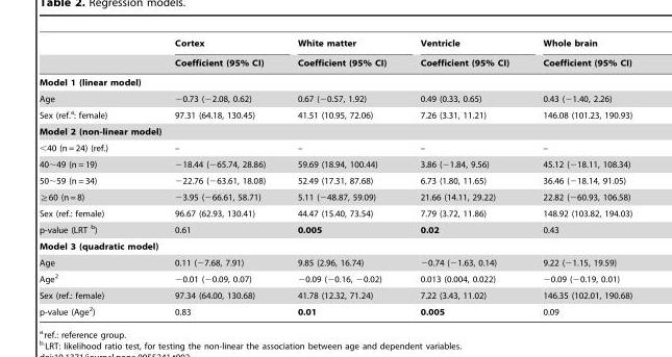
<table><thead><tr><td rowspan="2"></td><td rowspan="2">Cortex Coefficient (95% CI)</td><td rowspan="2">White matter Coefficient (95% CI)</td><td rowspan="2">Ventricle Coefficient (95% CI)</td><td rowspan="2">Whole brain Coefficient (95% CI)</td></tr><tr></tr></thead><tbody><tr><td colspan="5">Model 1 (linear model)</td></tr><tr><td>Age</td><td>−0.73 (−2.08, 0.62)</td><td>0.67 (−0.57, 1.92)</td><td>0.49 (0.33, 0.65)</td><td>0.43 (−1.40, 2.26)</td></tr><tr><td>Sex (ref.<sup>a</sup>: female)</td><td>97.31 (64.18, 130.45)</td><td>41.51 (10.95, 72.06)</td><td>7.26 (3.31, 11.21)</td><td>146.08 (101.23, 190.93)</td></tr><tr><td colspan="5">Model 2 (non-linear model)</td></tr><tr><td>&lt;40 (n = 24) (ref.)</td><td>–</td><td>–</td><td>–</td><td>–</td></tr><tr><td>40∼49 (n = 19)</td><td>−18.44 (−65.74, 28.86)</td><td>59.69 (18.94, 100.44)</td><td>3.86 (−1.84, 9.56)</td><td>45.12 (−18.11, 108.34)</td></tr><tr><td>50∼59 (n = 34)</td><td>−22.76 (−63.61, 18.08)</td><td>52.49 (17.31, 87.68)</td><td>6.73 (1.80, 11.65)</td><td>36.46 (−18.14, 91.05)</td></tr><tr><td>≧60 (n = 8)</td><td>−3.95 (−66.61, 58.71)</td><td>5.11 (−48.87, 59.09)</td><td>21.66 (14.11, 29.22)</td><td>22.82 (−60.93, 106.58)</td></tr><tr><td>Sex (ref.: female)</td><td>96.67 (62.93, 130.41)</td><td>44.47 (15.40, 73.54)</td><td>7.79 (3.72, 11.86)</td><td>148.92 (103.82, 194.03)</td></tr><tr><td>p-value (LRT <sup>b</sup>)</td><td>0.61</td><td>0.005</td><td>0.02</td><td>0.43</td></tr><tr><td colspan="5">Model 3 (quadratic model)</td></tr><tr><td>Age</td><td>0.11 (−7.68, 7.91)</td><td>9.85 (2.96, 16.74)</td><td>−0.74 (−1.63, 0.14)</td><td>9.22 (−1.15, 19.59)</td></tr><tr><td>Age<sup>2</sup></td><td>−0.01 (−0.09, 0.07)</td><td>−0.09 (−0.16, −0.02)</td><td>0.013 (0.004, 0.022)</td><td>−0.09 (−0.19, 0.01)</td></tr><tr><td>Sex (ref.: female)</td><td>97.34 (64.00, 130.68)</td><td>41.78 (12.32, 71.24)</td><td>7.22 (3.43, 11.02)</td><td>146.35 (102.01, 190.68)</td></tr><tr><td>p-value (Age<sup>2</sup>)</td><td>0.83</td><td>0.01</td><td>0.005</td><td>0.09</td></tr></tbody></table>